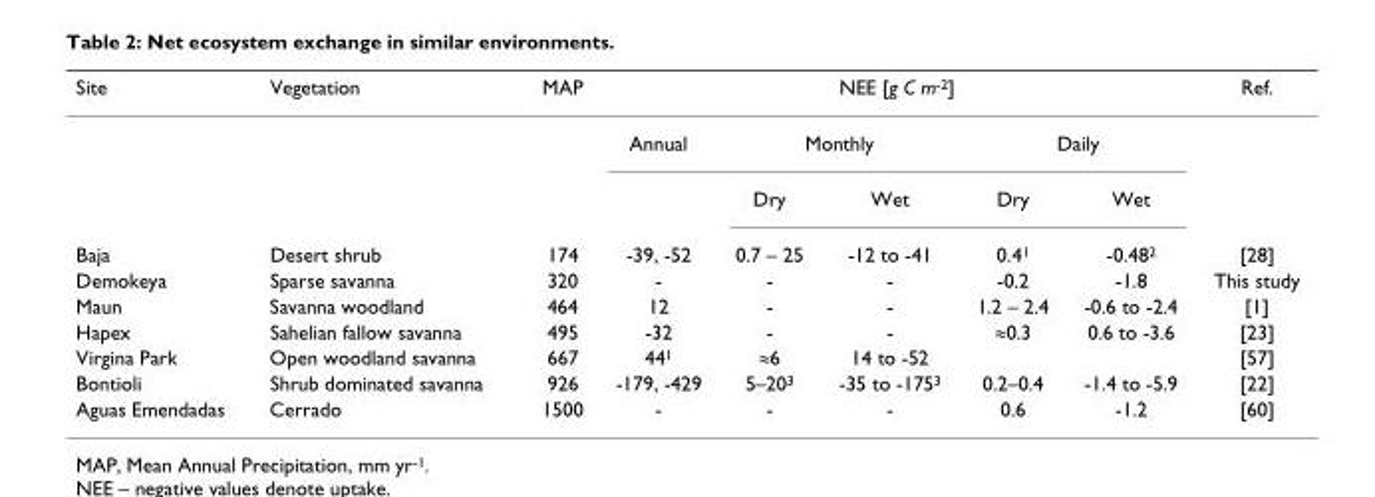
<table><thead><tr><td rowspan="3">Site</td><td rowspan="3">Vegetation</td><td rowspan="3">MAP</td><td colspan="5">NEE [g C m<sup>-2</sup>]</td><td rowspan="3">Ref.</td></tr><tr><td rowspan="2">Annual</td><td colspan="2">Monthly</td><td colspan="2">Daily</td></tr><tr><td>Dry</td><td>Wet</td><td>Dry</td><td>Wet</td></tr></thead><tbody><tr><td>Baja</td><td>Desert shrub</td><td>174</td><td>-39, -52</td><td>0.7 – 25</td><td>-12 to -41</td><td>0.4<sup>1</sup></td><td>-0.48<sup>2</sup></td><td>[28]</td></tr><tr><td>Demokeya</td><td>Sparse savanna</td><td>320</td><td>-</td><td>-</td><td>-</td><td>-0.2</td><td>-1.8</td><td>This study</td></tr><tr><td>Maun</td><td>Savanna woodland</td><td>464</td><td>12</td><td>-</td><td>-</td><td>1.2 – 2.4</td><td>-0.6 to -2.4</td><td>[1]</td></tr><tr><td>Hapex</td><td>Sahelian fallow savanna</td><td>495</td><td>-32</td><td>-</td><td>-</td><td>≈0.3</td><td>0.6 to -3.6</td><td>[23]</td></tr><tr><td>Virgina Park</td><td>Open woodland savanna</td><td>667</td><td>44<sup>1</sup></td><td>≈6</td><td>14 to -52</td><td></td><td></td><td>[57]</td></tr><tr><td>Bontioli</td><td>Shrub dominated savanna</td><td>926</td><td>-179, -429</td><td>5–20<sup>3</sup></td><td>-35 to -175<sup>3</sup></td><td>0.2–0.4</td><td>-1.4 to -5.9</td><td>[22]</td></tr><tr><td>Aguas Emendadas</td><td>Cerrado</td><td>1500</td><td>-</td><td>-</td><td>-</td><td>0.6</td><td>-1.2</td><td>[60]</td></tr></tbody></table>